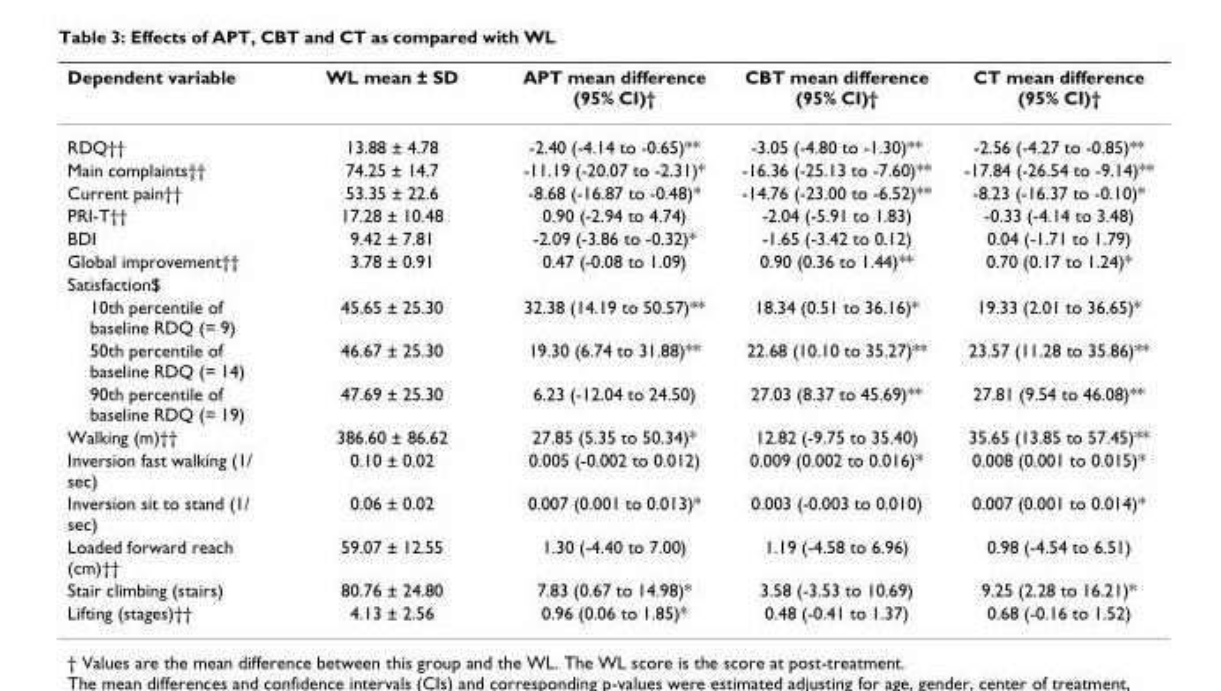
<table><thead><tr><td>Dependent variable</td><td>WL mean ± SD</td><td>APT mean difference (95% CI)†</td><td>CBT mean difference (95% CI)†</td><td>CT mean difference (95% CI)†</td></tr></thead><tbody><tr><td>RDQ††</td><td>13.88 ± 4.78</td><td>-2.40 (-4.14 to -0.65)**</td><td>-3.05 (-4.80 to -1.30)**</td><td>-2.56 (-4.27 to -0.85)**</td></tr><tr><td>Main complaints††</td><td>74.25 ± 14.7</td><td>-11.19 (-20.07 to -2.31)*</td><td>-16.36 (-25.13 to -7.60)**</td><td>-17.84 (-26.54 to -9.14)**</td></tr><tr><td>Current pain††</td><td>53.35 ± 22.6</td><td>-8.68 (-16.87 to -0.48)*</td><td>-14.76 (-23.00 to -6.52)**</td><td>-8.23 (-16.37 to -0.10)*</td></tr><tr><td>PRI-T††</td><td>17.28 ± 10.48</td><td>0.90 (-2.94 to 4.74)</td><td>-2.04 (-5.91 to 1.83)</td><td>-0.33 (-4.14 to 3.48)</td></tr><tr><td>BDI</td><td>9.42 ± 7.81</td><td>-2.09 (-3.86 to -0.32)*</td><td>-1.65 (-3.42 to 0.12)</td><td>0.04 (-1.71 to 1.79)</td></tr><tr><td>Global improvement††</td><td>3.78 ± 0.91</td><td>0.47 (-0.08 to 1.09)</td><td>0.90 (0.36 to 1.44)**</td><td>0.70 (0.17 to 1.24)*</td></tr><tr><td colspan="5">Satisfaction$</td></tr><tr><td>10th percentile of baseline RDQ (= 9)</td><td>45.65 ± 25.30</td><td>32.38 (14.19 to 50.57)**</td><td>18.34 (0.51 to 36.16)*</td><td>19.33 (2.01 to 36.65)*</td></tr><tr><td>50th percentile of baseline RDQ (= 14)</td><td>46.67 ± 25.30</td><td>19.30 (6.74 to 31.88)**</td><td>22.68 (10.10 to 35.27)**</td><td>23.57 (11.28 to 35.86)**</td></tr><tr><td>90th percentile of baseline RDQ (= 19)</td><td>47.69 ± 25.30</td><td>6.23 (-12.04 to 24.50)</td><td>27.03 (8.37 to 45.69)**</td><td>27.81 (9.54 to 46.08)**</td></tr><tr><td>Walking (m)††</td><td>386.60 ± 86.62</td><td>27.85 (5.35 to 50.34)*</td><td>12.82 (-9.75 to 35.40)</td><td>35.65 (13.85 to 57.45)**</td></tr><tr><td>Inversion fast walking (1/ sec)</td><td>0.10 ± 0.02</td><td>0.005 (-0.002 to 0.012)</td><td>0.009 (0.002 to 0.016)*</td><td>0.008 (0.001 to 0.015)*</td></tr><tr><td>Inversion sit to stand (1/ sec)</td><td>0.06 ± 0.02</td><td>0.007 (0.001 to 0.013)*</td><td>0.003 (-0.003 to 0.010)</td><td>0.007 (0.001 to 0.014)*</td></tr><tr><td>Loaded forward reach (cm)††</td><td>59.07 ± 12.55</td><td>1.30 (-4.40 to 7.00)</td><td>1.19 (-4.58 to 6.96)</td><td>0.98 (-4.54 to 6.51)</td></tr><tr><td>Stair climbing (stairs)</td><td>80.76 ± 24.80</td><td>7.83 (0.67 to 14.98)*</td><td>3.58 (-3.53 to 10.69)</td><td>9.25 (2.28 to 16.21)*</td></tr><tr><td>Lifting (stages)††</td><td>4.13 ± 2.56</td><td>0.96 (0.06 to 1.85)*</td><td>0.48 (-0.41 to 1.37)</td><td>0.68 (-0.16 to 1.52)</td></tr></tbody></table>